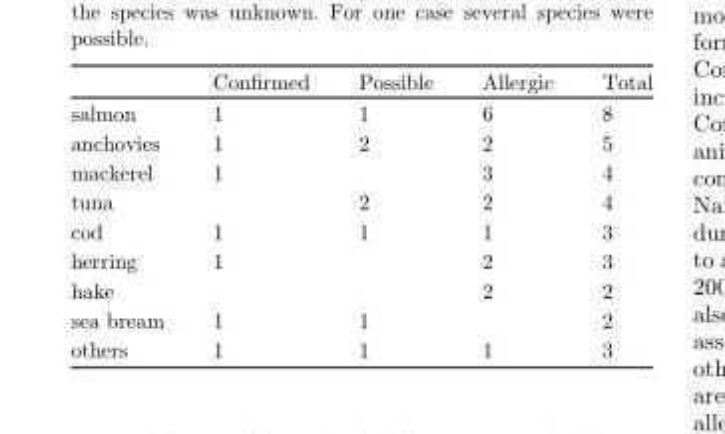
<table><thead><tr><td></td><td>Confirmed</td><td>Possible</td><td>Allergic</td><td>Total</td></tr></thead><tbody><tr><td>salmon</td><td>1</td><td>1</td><td>6</td><td>8</td></tr><tr><td>anchovies</td><td>1</td><td>2</td><td>2</td><td>5</td></tr><tr><td>mackerel</td><td>1</td><td></td><td>3</td><td>4</td></tr><tr><td>tuna</td><td></td><td>2</td><td>2</td><td>4</td></tr><tr><td>cod</td><td>1</td><td>1</td><td>1</td><td>3</td></tr><tr><td>herring</td><td>1</td><td></td><td>2</td><td>3</td></tr><tr><td>hake</td><td></td><td></td><td>2</td><td>2</td></tr><tr><td>sea bream</td><td>1</td><td>1</td><td></td><td>2</td></tr><tr><td>others</td><td>1</td><td>1</td><td>1</td><td>3</td></tr></tbody></table>